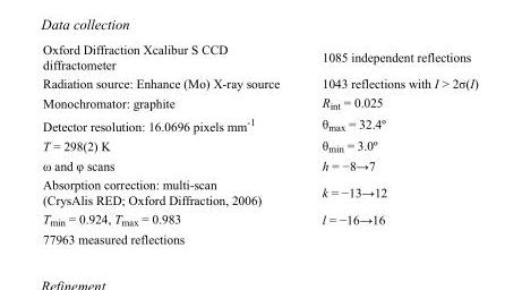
<table><tbody><tr><td>Oxford Diffraction Xcalibur S CCD diffractometer</td><td>1085 independent reflections</td></tr><tr><td>Radiation source: Enhance (Mo) X-ray source</td><td>1043 reflections with I &gt; 2σ(I)</td></tr><tr><td>Monochromator: graphite</td><td>R<sub>int</sub> = 0.025</td></tr><tr><td>Detector resolution: 16.0696 pixels mm<sup>-1</sup></td><td>θ<sub>max</sub> = 32.4º</td></tr><tr><td>T = 298(2) K</td><td>θ<sub>min</sub> = 3.0º</td></tr><tr><td>ω and φ scans</td><td>h = −8→7</td></tr><tr><td>Absorption correction: multi-scan (CrysAlis RED; Oxford Diffraction, 2006)</td><td>k = −13→12</td></tr><tr><td>T<sub>min</sub> = 0.924, T<sub>max</sub> = 0.983</td><td>l = −16→16</td></tr><tr><td>77963 measured reflections</td><td></td></tr></tbody></table>